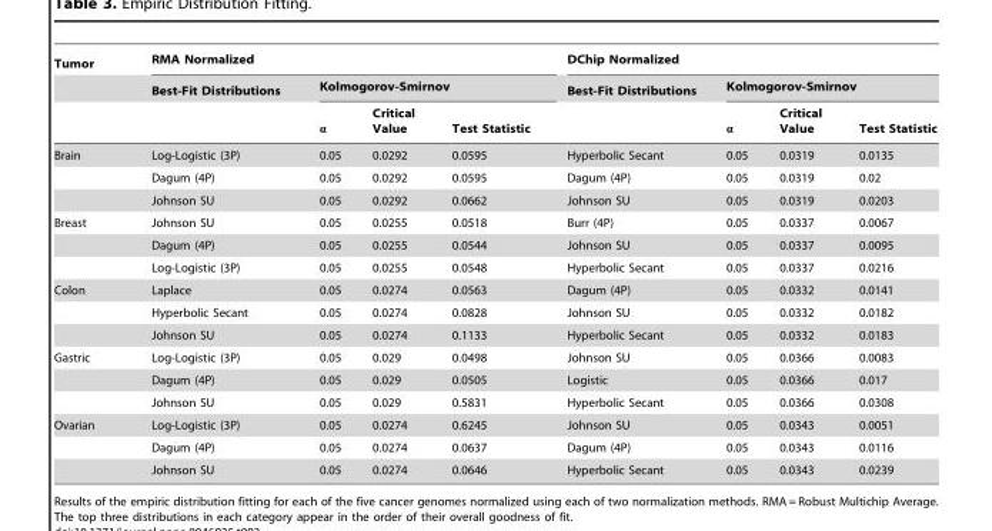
<table><thead><tr><td rowspan="3">Tumor</td><td colspan="4">RMA Normalized</td><td colspan="4">DChip Normalized</td></tr><tr><td rowspan="2">Best-Fit Distributions</td><td colspan="3">Kolmogorov-Smirnov</td><td rowspan="2">Best-Fit Distributions</td><td colspan="3">Kolmogorov-Smirnov</td></tr><tr><td>α</td><td>Critical Value</td><td>Test Statistic</td><td>α</td><td>Critical Value</td><td>Test Statistic</td></tr></thead><tbody><tr><td rowspan="3">Brain</td><td>Log-Logistic (3P)</td><td>0.05</td><td>0.0292</td><td>0.0595</td><td>Hyperbolic Secant</td><td>0.05</td><td>0.0319</td><td>0.0135</td></tr><tr><td>Dagum (4P)</td><td>0.05</td><td>0.0292</td><td>0.0595</td><td>Dagum (4P)</td><td>0.05</td><td>0.0319</td><td>0.02</td></tr><tr><td>Johnson SU</td><td>0.05</td><td>0.0292</td><td>0.0662</td><td>Johnson SU</td><td>0.05</td><td>0.0319</td><td>0.0203</td></tr><tr><td rowspan="3">Breast</td><td>Johnson SU</td><td>0.05</td><td>0.0255</td><td>0.0518</td><td>Burr (4P)</td><td>0.05</td><td>0.0337</td><td>0.0067</td></tr><tr><td>Dagum (4P)</td><td>0.05</td><td>0.0255</td><td>0.0544</td><td>Johnson SU</td><td>0.05</td><td>0.0337</td><td>0.0095</td></tr><tr><td>Log-Logistic (3P)</td><td>0.05</td><td>0.0255</td><td>0.0548</td><td>Hyperbolic Secant</td><td>0.05</td><td>0.0337</td><td>0.0216</td></tr><tr><td rowspan="3">Colon</td><td>Laplace</td><td>0.05</td><td>0.0274</td><td>0.0563</td><td>Dagum (4P)</td><td>0.05</td><td>0.0332</td><td>0.0141</td></tr><tr><td>Hyperbolic Secant</td><td>0.05</td><td>0.0274</td><td>0.0828</td><td>Johnson SU</td><td>0.05</td><td>0.0332</td><td>0.0182</td></tr><tr><td>Johnson SU</td><td>0.05</td><td>0.0274</td><td>0.1133</td><td>Hyperbolic Secant</td><td>0.05</td><td>0.0332</td><td>0.0183</td></tr><tr><td rowspan="3">Gastric</td><td>Log-Logistic (3P)</td><td>0.05</td><td>0.029</td><td>0.0498</td><td>Johnson SU</td><td>0.05</td><td>0.0366</td><td>0.0083</td></tr><tr><td>Dagum (4P)</td><td>0.05</td><td>0.029</td><td>0.0505</td><td>Logistic</td><td>0.05</td><td>0.0366</td><td>0.017</td></tr><tr><td>Johnson SU</td><td>0.05</td><td>0.029</td><td>0.5831</td><td>Hyperbolic Secant</td><td>0.05</td><td>0.0366</td><td>0.0308</td></tr><tr><td rowspan="3">Ovarian</td><td>Log-Logistic (3P)</td><td>0.05</td><td>0.0274</td><td>0.6245</td><td>Johnson SU</td><td>0.05</td><td>0.0343</td><td>0.0051</td></tr><tr><td>Dagum (4P)</td><td>0.05</td><td>0.0274</td><td>0.0637</td><td>Dagum (4P)</td><td>0.05</td><td>0.0343</td><td>0.0116</td></tr><tr><td>Johnson SU</td><td>0.05</td><td>0.0274</td><td>0.0646</td><td>Hyperbolic Secant</td><td>0.05</td><td>0.0343</td><td>0.0239</td></tr></tbody></table>